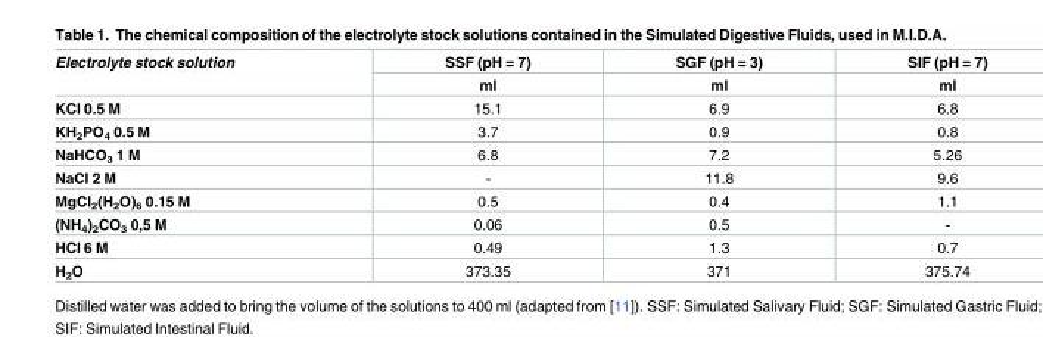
<table><thead><tr><td rowspan="2">Electrolyte stock solution</td><td rowspan="2">SSF (pH = 7) ml</td><td rowspan="2">SGF (pH = 3) ml</td><td rowspan="2">SIF (pH = 7) ml</td></tr><tr></tr></thead><tbody><tr><td>KCl 0.5 M</td><td>15.1</td><td>6.9</td><td>6.8</td></tr><tr><td>KH<sub>2</sub>PO<sub>4</sub> 0.5 M</td><td>3.7</td><td>0.9</td><td>0.8</td></tr><tr><td>NaHCO<sub>3</sub> 1 M</td><td>6.8</td><td>7.2</td><td>5.26</td></tr><tr><td>NaCl 2 M</td><td>-</td><td>11.8</td><td>9.6</td></tr><tr><td>MgCl<sub>2</sub>(H<sub>2</sub>O)<sub>6</sub> 0.15 M</td><td>0.5</td><td>0.4</td><td>1.1</td></tr><tr><td>(NH<sub>4</sub>)<sub>2</sub>CO<sub>3</sub> 0,5 M</td><td>0.06</td><td>0.5</td><td>-</td></tr><tr><td>HCl 6 M</td><td>0.49</td><td>1.3</td><td>0.7</td></tr><tr><td>H<sub>2</sub>O</td><td>373.35</td><td>371</td><td>375.74</td></tr></tbody></table>